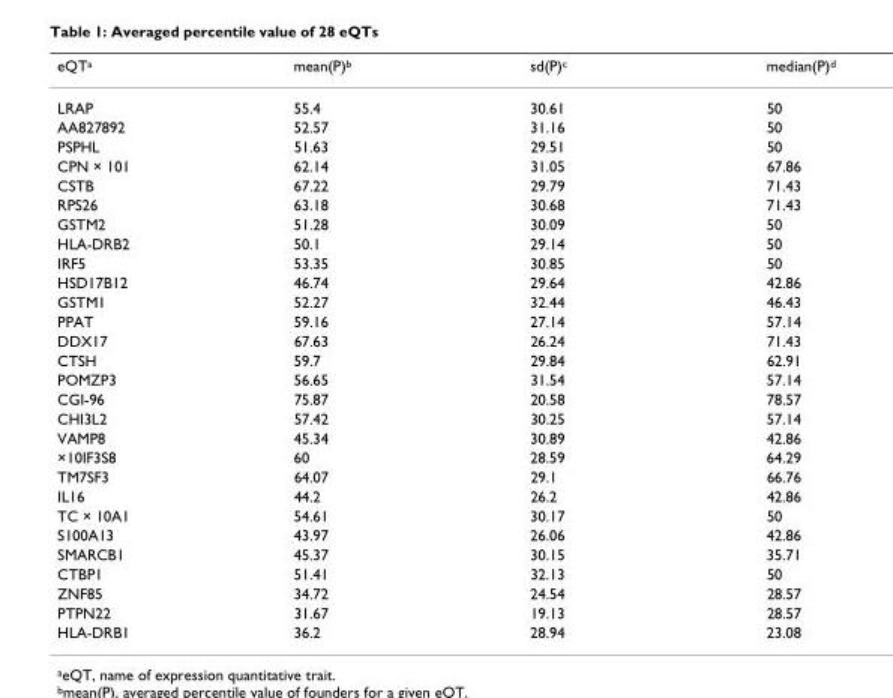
<table><thead><tr><td>eQT<sup>a</sup></td><td>mean(P)<sup>b</sup></td><td>sd(P)<sup>c</sup></td><td>median(P)<sup>d</sup></td></tr></thead><tbody><tr><td>LRAP</td><td>55.4</td><td>30.61</td><td>50</td></tr><tr><td>AA827892</td><td>52.57</td><td>31.16</td><td>50</td></tr><tr><td>PSPHL</td><td>51.63</td><td>29.51</td><td>50</td></tr><tr><td>CPN × 101</td><td>62.14</td><td>31.05</td><td>67.86</td></tr><tr><td>CSTB</td><td>67.22</td><td>29.79</td><td>71.43</td></tr><tr><td>RPS26</td><td>63.18</td><td>30.68</td><td>71.43</td></tr><tr><td>GSTM2</td><td>51.28</td><td>30.09</td><td>50</td></tr><tr><td>HLA-DRB2</td><td>50.1</td><td>29.14</td><td>50</td></tr><tr><td>IRF5</td><td>53.35</td><td>30.85</td><td>50</td></tr><tr><td>HSD17B12</td><td>46.74</td><td>29.64</td><td>42.86</td></tr><tr><td>GSTM1</td><td>52.27</td><td>32.44</td><td>46.43</td></tr><tr><td>PPAT</td><td>59.16</td><td>27.14</td><td>57.14</td></tr><tr><td>DDX17</td><td>67.63</td><td>26.24</td><td>71.43</td></tr><tr><td>CTSH</td><td>59.7</td><td>29.84</td><td>62.91</td></tr><tr><td>POMZP3</td><td>56.65</td><td>31.54</td><td>57.14</td></tr><tr><td>CGI-96</td><td>75.87</td><td>20.58</td><td>78.57</td></tr><tr><td>CHI3L2</td><td>57.42</td><td>30.25</td><td>57.14</td></tr><tr><td>VAMP8</td><td>45.34</td><td>30.89</td><td>42.86</td></tr><tr><td>×10IF3S8</td><td>60</td><td>28.59</td><td>64.29</td></tr><tr><td>TM7SF3</td><td>64.07</td><td>29.1</td><td>66.76</td></tr><tr><td>IL16</td><td>44.2</td><td>26.2</td><td>42.86</td></tr><tr><td>TC × 10A1</td><td>54.61</td><td>30.17</td><td>50</td></tr><tr><td>S100A13</td><td>43.97</td><td>26.06</td><td>42.86</td></tr><tr><td>SMARCB1</td><td>45.37</td><td>30.15</td><td>35.71</td></tr><tr><td>CTBP1</td><td>51.41</td><td>32.13</td><td>50</td></tr><tr><td>ZNF85</td><td>34.72</td><td>24.54</td><td>28.57</td></tr><tr><td>PTPN22</td><td>31.67</td><td>19.13</td><td>28.57</td></tr><tr><td>HLA-DRB1</td><td>36.2</td><td>28.94</td><td>23.08</td></tr></tbody></table>